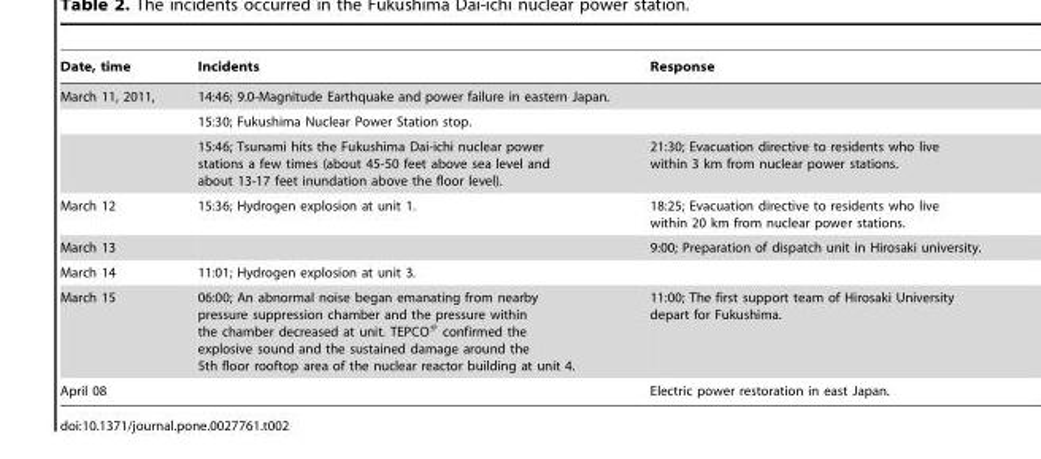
<table><thead><tr><td>Date, time</td><td>Incidents</td><td>Response</td></tr></thead><tbody><tr><td rowspan="3">March 11, 2011,</td><td colspan="2">14:46; 9.0-Magnitude Earthquake and power failure in eastern Japan.</td></tr><tr><td colspan="2">15:30; Fukushima Nuclear Power Station stop.</td></tr><tr><td>15:46; Tsunami hits the Fukushima Dai-ichi nuclear power stations a few times (about 45-50 feet above sea level and about 13-17 feet inundation above the floor level).</td><td>21:30; Evacuation directive to residents who live within 3 km from nuclear power stations.</td></tr><tr><td>March 12</td><td>15:36; Hydrogen explosion at unit 1.</td><td>18:25; Evacuation directive to residents who live within 20 km from nuclear power stations.</td></tr><tr><td>March 13</td><td></td><td>9:00; Preparation of dispatch unit in Hirosaki university.</td></tr><tr><td>March 14</td><td>11:01; Hydrogen explosion at unit 3.</td><td></td></tr><tr><td>March 15</td><td>06:00; An abnormal noise began emanating from nearby pressure suppression chamber and the pressure within the chamber decreased at unit. TEPCO<sup>#</sup> confirmed the explosive sound and the sustained damage around the 5th floor rooftop area of the nuclear reactor building at unit 4.</td><td>11:00; The first support team of Hirosaki University depart for Fukushima.</td></tr><tr><td>April 08</td><td></td><td>Electric power restoration in east Japan.</td></tr></tbody></table>